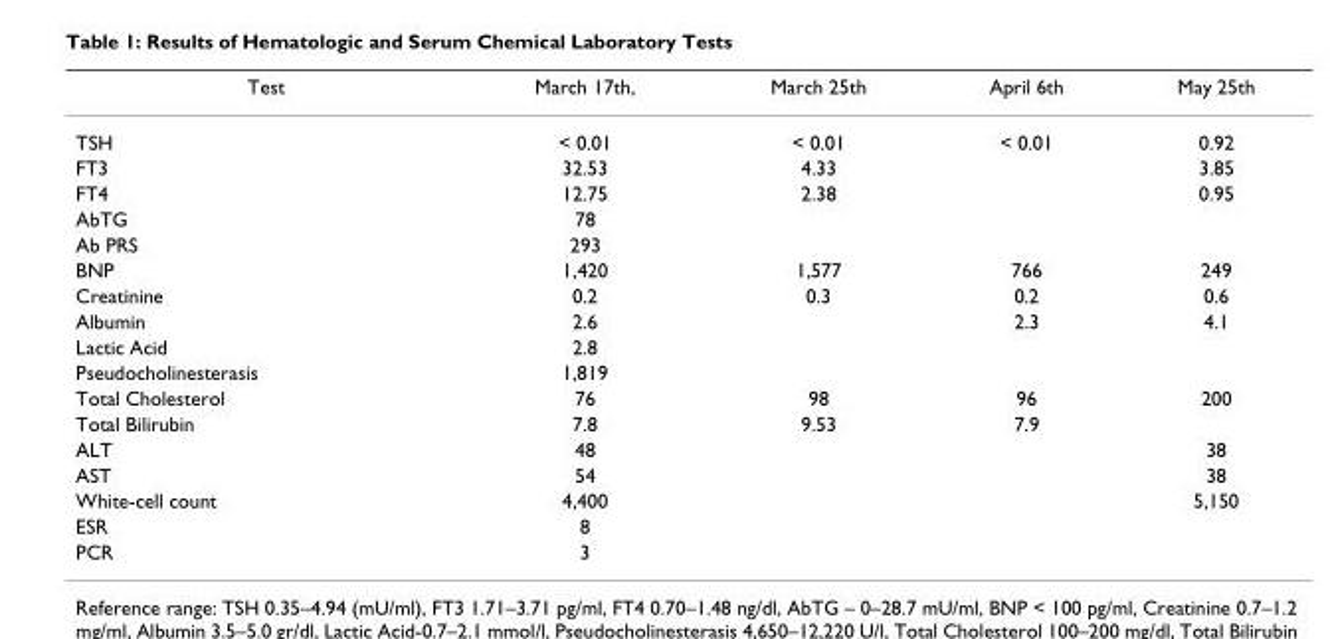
<table><thead><tr><td>Test</td><td>March 17th,</td><td>March 25th</td><td>April 6th</td><td>May 25th</td></tr></thead><tbody><tr><td>TSH</td><td>&lt; 0.01</td><td>&lt; 0.01</td><td>&lt; 0.01</td><td>0.92</td></tr><tr><td>FT3</td><td>32.53</td><td>4.33</td><td></td><td>3.85</td></tr><tr><td>FT4</td><td>12.75</td><td>2.38</td><td></td><td>0.95</td></tr><tr><td>AbTG</td><td>78</td><td></td><td></td><td></td></tr><tr><td>Ab PRS</td><td>293</td><td></td><td></td><td></td></tr><tr><td>BNP</td><td>1,420</td><td>1,577</td><td>766</td><td>249</td></tr><tr><td>Creatinine</td><td>0.2</td><td>0.3</td><td>0.2</td><td>0.6</td></tr><tr><td>Albumin</td><td>2.6</td><td></td><td>2.3</td><td>4.1</td></tr><tr><td>Lactic Acid</td><td>2.8</td><td></td><td></td><td></td></tr><tr><td>Pseudocholinesterasis</td><td>1,819</td><td></td><td></td><td></td></tr><tr><td>Total Cholesterol</td><td>76</td><td>98</td><td>96</td><td>200</td></tr><tr><td>Total Bilirubin</td><td>7.8</td><td>9.53</td><td>7.9</td><td></td></tr><tr><td>ALT</td><td>48</td><td></td><td></td><td>38</td></tr><tr><td>AST</td><td>54</td><td></td><td></td><td>38</td></tr><tr><td>White-cell count</td><td>4,400</td><td></td><td></td><td>5,150</td></tr><tr><td>ESR</td><td>8</td><td></td><td></td><td></td></tr><tr><td>PCR</td><td>3</td><td></td><td></td><td></td></tr></tbody></table>